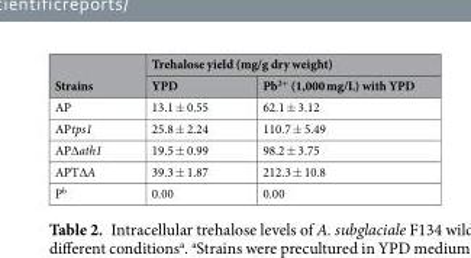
<table><thead><tr><td rowspan="2">Strains</td><td colspan="2">Trehalose yield (mg/g dry weight)</td></tr><tr><td>YPD</td><td>Pb<sup>2+</sup> (1,000 mg/L) with YPD</td></tr></thead><tbody><tr><td>AP</td><td>13.1 ± 0.55</td><td>62.1 ± 3.12</td></tr><tr><td>APtps1</td><td>25.8 ± 2.24</td><td>110.7 ± 5.49</td></tr><tr><td>AP∆ath1</td><td>19.5 ± 0.99</td><td>98.2 ± 3.75</td></tr><tr><td>APT∆A</td><td>39.3 ± 1.87</td><td>212.3 ± 10.8</td></tr><tr><td>P<sup>b</sup></td><td>0.00</td><td>0.00</td></tr></tbody></table>